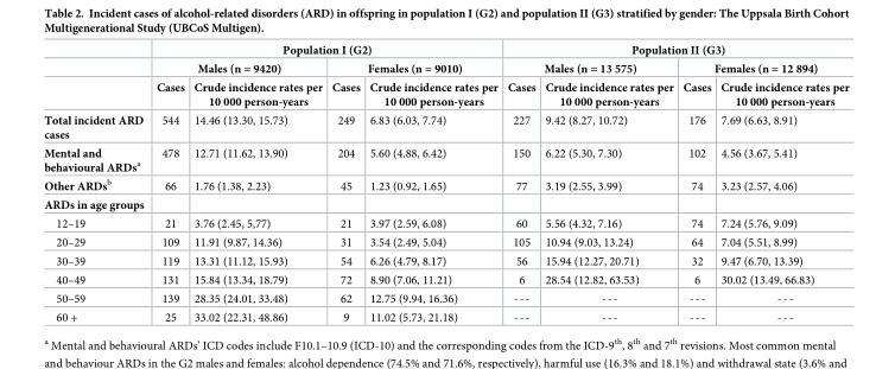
<table><thead><tr><td rowspan="3"></td><td colspan="4">Population I (G2)</td><td colspan="4">Population II (G3)</td></tr><tr><td colspan="2">Males (n = 9420)</td><td colspan="2">Females (n = 9010)</td><td colspan="2">Males (n = 13 575)</td><td colspan="2">Females (n = 12 894)</td></tr><tr><td>Cases</td><td>Crude incidence rates per 10 000 person-years</td><td>Cases</td><td>Crude incidence rates per 10 000 person-years</td><td>Cases</td><td>Crude incidence rates per 10 000 person-years</td><td>Cases</td><td>Crude incidence rates per 10 000 person-years</td></tr></thead><tbody><tr><td>Total incident ARD cases</td><td>544</td><td>14.46 (13.30, 15.73)</td><td>249</td><td>6.83 (6.03, 7.74)</td><td>227</td><td>9.42 (8.27, 10.72)</td><td>176</td><td>7.69 (6.63, 8.91)</td></tr><tr><td>Mental and behavioural ARDs<sup>a</sup></td><td>478</td><td>12.71 (11.62, 13.90)</td><td>204</td><td>5.60 (4.88, 6.42)</td><td>150</td><td>6.22 (5.30, 7.30)</td><td>102</td><td>4.56 (3.67, 5.41)</td></tr><tr><td>Other ARDs<sup>b</sup></td><td>66</td><td>1.76 (1.38, 2.23)</td><td>45</td><td>1.23 (0.92, 1.65)</td><td>77</td><td>3.19 (2.55, 3.99)</td><td>74</td><td>3.23 (2.57, 4.06)</td></tr><tr><td colspan="9">ARDs in age groups</td></tr><tr><td>12–19</td><td>21</td><td>3.76 (2.45, 5,77)</td><td>21</td><td>3.97 (2.59, 6.08)</td><td>60</td><td>5.56 (4.32, 7.16)</td><td>74</td><td>7.24 (5.76, 9.09)</td></tr><tr><td>20–29</td><td>109</td><td>11.91 (9.87, 14.36)</td><td>31</td><td>3.54 (2.49, 5.04)</td><td>105</td><td>10.94 (9.03, 13.24)</td><td>64</td><td>7.04 (5.51, 8.99)</td></tr><tr><td>30–39</td><td>119</td><td>13.31 (11.12, 15.93)</td><td>54</td><td>6.26 (4.79, 8.17)</td><td>56</td><td>15.94 (12.27, 20.71)</td><td>32</td><td>9.47 (6.70, 13.39)</td></tr><tr><td>40–49</td><td>131</td><td>15.84 (13.34, 18.79)</td><td>72</td><td>8.90 (7.06, 11.21)</td><td>6</td><td>28.54 (12.82, 63.53)</td><td>6</td><td>30.02 (13.49, 66.83)</td></tr><tr><td>50–59</td><td>139</td><td>28.35 (24.01, 33.48)</td><td>62</td><td>12.75 (9.94, 16.36)</td><td>---</td><td>---</td><td>---</td><td>---</td></tr><tr><td>60 +</td><td>25</td><td>33.02 (22.31, 48.86)</td><td>9</td><td>11.02 (5.73, 21.18)</td><td>---</td><td>---</td><td>---</td><td>---</td></tr></tbody></table>